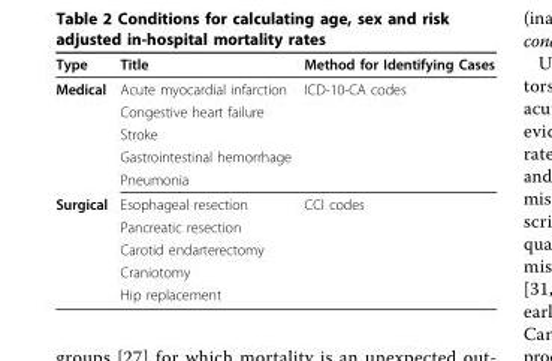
<table><thead><tr><td>Type</td><td>Title</td><td>Method for Identifying Cases</td></tr></thead><tbody><tr><td rowspan="5">Medical</td><td>Acute myocardial infarction</td><td>ICD-10-CA codes</td></tr><tr><td>Congestive heart failure</td><td></td></tr><tr><td>Stroke</td><td></td></tr><tr><td>Gastrointestinal hemorrhage</td><td></td></tr><tr><td>Pneumonia</td><td></td></tr><tr><td rowspan="5">Surgical</td><td>Esophageal resection</td><td>CCI codes</td></tr><tr><td>Pancreatic resection</td><td></td></tr><tr><td>Carotid endarterectomy</td><td></td></tr><tr><td>Craniotomy</td><td></td></tr><tr><td>Hip replacement</td><td></td></tr></tbody></table>